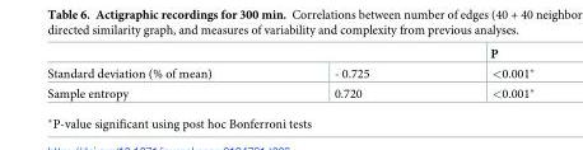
<table><thead><tr><td></td><td></td><td>P</td></tr></thead><tbody><tr><td>Standard deviation (% of mean)</td><td>- 0.725</td><td>&lt;0.001*</td></tr><tr><td>Sample entropy</td><td>0.720</td><td>&lt;0.001*</td></tr></tbody></table>